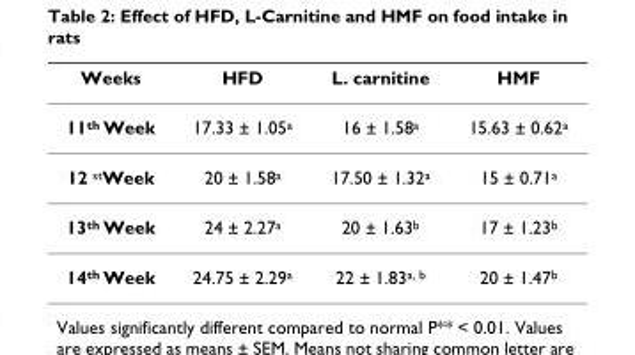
<table><thead><tr><td>Weeks</td><td>HFD</td><td>L. carnitine</td><td>HMF</td></tr></thead><tbody><tr><td>11<sup>th</sup> Week</td><td>17.33 ± 1.05<sup>a</sup></td><td>16 ± 1.58<sup>a</sup></td><td>15.63 ± 0.62<sup>a</sup></td></tr><tr><td>12 <sup>st</sup>Week</td><td>20 ± 1.58<sup>a</sup></td><td>17.50 ± 1.32<sup>a</sup></td><td>15 ± 0.71<sup>a</sup></td></tr><tr><td>13<sup>th</sup> Week</td><td>24 ± 2.27<sup>a</sup></td><td>20 ± 1.63<sup>b</sup></td><td>17 ± 1.23<sup>b</sup></td></tr><tr><td>14<sup>th</sup> Week</td><td>24.75 ± 2.29<sup>a</sup></td><td>22 ± 1.83<sup>a, b</sup></td><td>20 ± 1.47<sup>b</sup></td></tr></tbody></table>